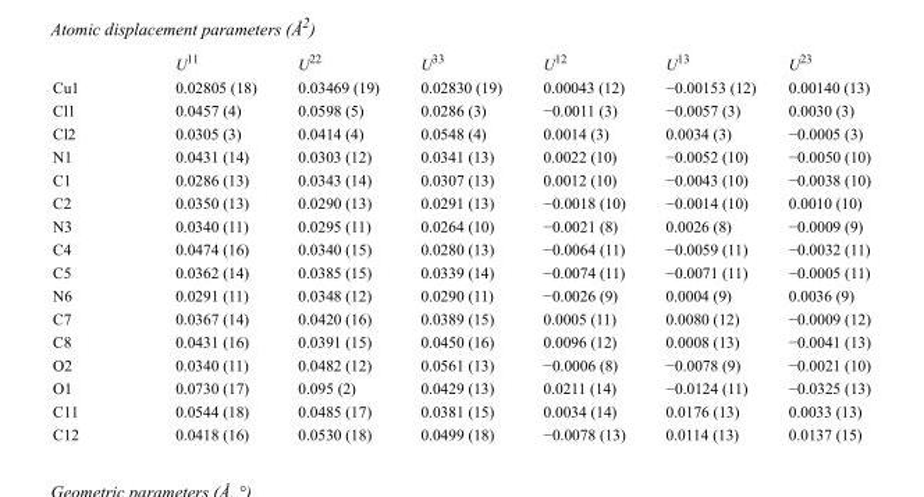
<table><thead><tr><td></td><td>U<sup>11</sup></td><td>U<sup>22</sup></td><td>U<sup>33</sup></td><td>U<sup>12</sup></td><td>U<sup>13</sup></td><td>U<sup>23</sup></td></tr></thead><tbody><tr><td>Cu1</td><td>0.02805 (18)</td><td>0.03469 (19)</td><td>0.02830 (19)</td><td>0.00043 (12)</td><td>−0.00153 (12)</td><td>0.00140 (13)</td></tr><tr><td>Cl1</td><td>0.0457 (4)</td><td>0.0598 (5)</td><td>0.0286 (3)</td><td>−0.0011 (3)</td><td>−0.0057 (3)</td><td>0.0030 (3)</td></tr><tr><td>Cl2</td><td>0.0305 (3)</td><td>0.0414 (4)</td><td>0.0548 (4)</td><td>0.0014 (3)</td><td>0.0034 (3)</td><td>−0.0005 (3)</td></tr><tr><td>N1</td><td>0.0431 (14)</td><td>0.0303 (12)</td><td>0.0341 (13)</td><td>0.0022 (10)</td><td>−0.0052 (10)</td><td>−0.0050 (10)</td></tr><tr><td>C1</td><td>0.0286 (13)</td><td>0.0343 (14)</td><td>0.0307 (13)</td><td>0.0012 (10)</td><td>−0.0043 (10)</td><td>−0.0038 (10)</td></tr><tr><td>C2</td><td>0.0350 (13)</td><td>0.0290 (13)</td><td>0.0291 (13)</td><td>−0.0018 (10)</td><td>−0.0014 (10)</td><td>0.0010 (10)</td></tr><tr><td>N3</td><td>0.0340 (11)</td><td>0.0295 (11)</td><td>0.0264 (10)</td><td>−0.0021 (8)</td><td>0.0026 (8)</td><td>−0.0009 (9)</td></tr><tr><td>C4</td><td>0.0474 (16)</td><td>0.0340 (15)</td><td>0.0280 (13)</td><td>−0.0064 (11)</td><td>−0.0059 (11)</td><td>−0.0032 (11)</td></tr><tr><td>C5</td><td>0.0362 (14)</td><td>0.0385 (15)</td><td>0.0339 (14)</td><td>−0.0074 (11)</td><td>−0.0071 (11)</td><td>−0.0005 (11)</td></tr><tr><td>N6</td><td>0.0291 (11)</td><td>0.0348 (12)</td><td>0.0290 (11)</td><td>−0.0026 (9)</td><td>0.0004 (9)</td><td>0.0036 (9)</td></tr><tr><td>C7</td><td>0.0367 (14)</td><td>0.0420 (16)</td><td>0.0389 (15)</td><td>0.0005 (11)</td><td>0.0080 (12)</td><td>−0.0009 (12)</td></tr><tr><td>C8</td><td>0.0431 (16)</td><td>0.0391 (15)</td><td>0.0450 (16)</td><td>0.0096 (12)</td><td>0.0008 (13)</td><td>−0.0041 (13)</td></tr><tr><td>O2</td><td>0.0340 (11)</td><td>0.0482 (12)</td><td>0.0561 (13)</td><td>−0.0006 (8)</td><td>−0.0078 (9)</td><td>−0.0021 (10)</td></tr><tr><td>O1</td><td>0.0730 (17)</td><td>0.095 (2)</td><td>0.0429 (13)</td><td>0.0211 (14)</td><td>−0.0124 (11)</td><td>−0.0325 (13)</td></tr><tr><td>C11</td><td>0.0544 (18)</td><td>0.0485 (17)</td><td>0.0381 (15)</td><td>0.0034 (14)</td><td>0.0176 (13)</td><td>0.0033 (13)</td></tr><tr><td>C12</td><td>0.0418 (16)</td><td>0.0530 (18)</td><td>0.0499 (18)</td><td>−0.0078 (13)</td><td>0.0114 (13)</td><td>0.0137 (15)</td></tr></tbody></table>